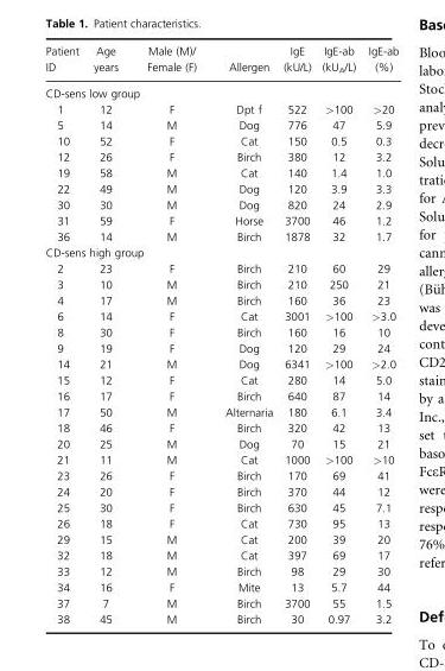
<table><thead><tr><td>Patient ID</td><td>Age years</td><td>Male (M)/ Female (F)</td><td>Allergen</td><td>IgE (kU/L)</td><td>IgE-ab (kU<sub>A</sub>/L)</td><td>IgE-ab (%)</td></tr></thead><tbody><tr><td colspan="7">CD-sens low group</td></tr><tr><td>1</td><td>12</td><td>F</td><td>Dpt f</td><td>522</td><td>&gt;100</td><td>&gt;20</td></tr><tr><td>5</td><td>14</td><td>M</td><td>Dog</td><td>776</td><td>47</td><td>5.9</td></tr><tr><td>10</td><td>52</td><td>F</td><td>Cat</td><td>150</td><td>0.5</td><td>0.3</td></tr><tr><td>12</td><td>26</td><td>F</td><td>Birch</td><td>380</td><td>12</td><td>3.2</td></tr><tr><td>19</td><td>58</td><td>M</td><td>Cat</td><td>140</td><td>1.4</td><td>1.0</td></tr><tr><td>22</td><td>49</td><td>M</td><td>Dog</td><td>120</td><td>3.9</td><td>3.3</td></tr><tr><td>30</td><td>30</td><td>M</td><td>Dog</td><td>820</td><td>24</td><td>2.9</td></tr><tr><td>31</td><td>59</td><td>F</td><td>Horse</td><td>3700</td><td>46</td><td>1.2</td></tr><tr><td>36</td><td>14</td><td>M</td><td>Birch</td><td>1878</td><td>32</td><td>1.7</td></tr><tr><td colspan="7">CD-sens high group</td></tr><tr><td>2</td><td>23</td><td>F</td><td>Birch</td><td>210</td><td>60</td><td>29</td></tr><tr><td>3</td><td>10</td><td>M</td><td>Birch</td><td>210</td><td>250</td><td>21</td></tr><tr><td>4</td><td>17</td><td>M</td><td>Birch</td><td>160</td><td>36</td><td>23</td></tr><tr><td>6</td><td>14</td><td>F</td><td>Cat</td><td>3001</td><td>&gt;100</td><td>&gt;3.0</td></tr><tr><td>8</td><td>30</td><td>F</td><td>Birch</td><td>160</td><td>16</td><td>10</td></tr><tr><td>9</td><td>19</td><td>F</td><td>Dog</td><td>120</td><td>29</td><td>24</td></tr><tr><td>14</td><td>21</td><td>M</td><td>Dog</td><td>6341</td><td>&gt;100</td><td>&gt;2.0</td></tr><tr><td>15</td><td>12</td><td>F</td><td>Cat</td><td>280</td><td>14</td><td>5.0</td></tr><tr><td>16</td><td>17</td><td>F</td><td>Birch</td><td>640</td><td>87</td><td>14</td></tr><tr><td>17</td><td>50</td><td>M</td><td>Alternaria</td><td>180</td><td>6.1</td><td>3.4</td></tr><tr><td>18</td><td>46</td><td>F</td><td>Birch</td><td>320</td><td>42</td><td>13</td></tr><tr><td>20</td><td>25</td><td>M</td><td>Dog</td><td>70</td><td>15</td><td>21</td></tr><tr><td>21</td><td>11</td><td>M</td><td>Cat</td><td>1000</td><td>&gt;100</td><td>&gt;10</td></tr><tr><td>23</td><td>26</td><td>F</td><td>Birch</td><td>170</td><td>69</td><td>41</td></tr><tr><td>24</td><td>20</td><td>F</td><td>Birch</td><td>370</td><td>44</td><td>12</td></tr><tr><td>25</td><td>30</td><td>F</td><td>Birch</td><td>630</td><td>45</td><td>7.1</td></tr><tr><td>26</td><td>18</td><td>F</td><td>Cat</td><td>730</td><td>95</td><td>13</td></tr><tr><td>29</td><td>15</td><td>M</td><td>Cat</td><td>200</td><td>39</td><td>20</td></tr><tr><td>32</td><td>18</td><td>M</td><td>Cat</td><td>397</td><td>69</td><td>17</td></tr><tr><td>33</td><td>12</td><td>M</td><td>Birch</td><td>98</td><td>29</td><td>30</td></tr><tr><td>34</td><td>16</td><td>F</td><td>Mite</td><td>13</td><td>5.7</td><td>44</td></tr><tr><td>37</td><td>7</td><td>M</td><td>Birch</td><td>3700</td><td>55</td><td>1.5</td></tr><tr><td>38</td><td>45</td><td>M</td><td>Birch</td><td>30</td><td>0.97</td><td>3.2</td></tr></tbody></table>